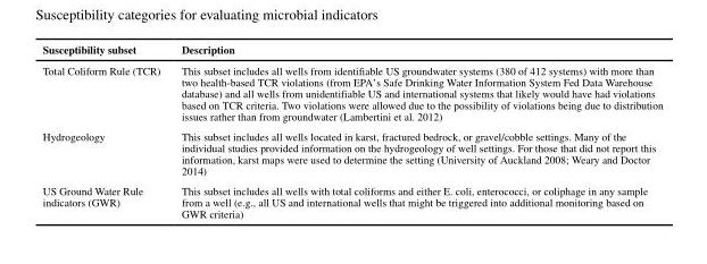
<table><thead><tr><td>Susceptibility subset</td><td>Description</td></tr></thead><tbody><tr><td>Total Coliform Rule (TCR)</td><td>This subset includes all wells from identifiable US groundwater systems (380 of 412 systems) with more than two health-based TCR violations (from EPA’s Safe Drinking Water Information System Fed Data Warehouse database) and all wells from unidentifiable US and international systems that likely would have had violations based on TCR criteria. Two violations were allowed due to the possibility of violations being due to distribution issues rather than from groundwater (Lambertini et al. 2012)</td></tr><tr><td>Hydrogeology</td><td>This subset includes all wells located in karst, fractured bedrock, or gravel/cobble settings. Many of the individual studies provided information on the hydrogeology of well settings. For those that did not report this information, karst maps were used to determine the setting (University of Auckland 2008; Weary and Doctor 2014)</td></tr><tr><td>US Ground Water Rule indicators (GWR)</td><td>This subset includes all wells with total coliforms and either E. coli, enterococci, or coliphage in any sample from a well (e.g., all US and international wells that might be triggered into additional monitoring based on GWR criteria)</td></tr></tbody></table>